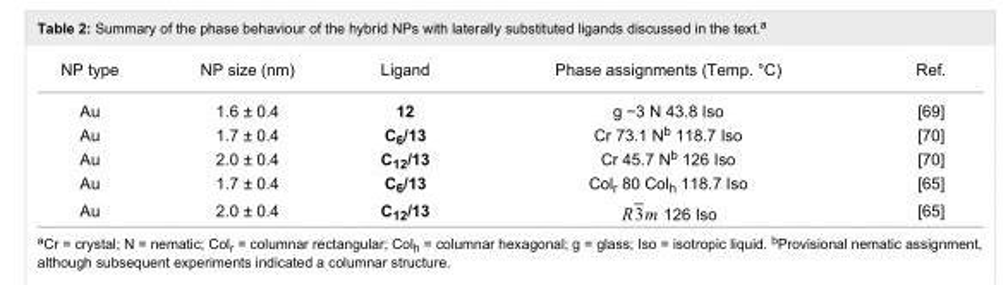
<table><tbody><tr><td>NP type</td><td>NP size (nm)</td><td>Ligand</td><td>Phase assignments (Temp. °C)</td><td>Ref.</td></tr><tr><td>Au</td><td>1.6 ± 0.4</td><td>12</td><td>g −3 N 43.8 Iso</td><td>[69]</td></tr><tr><td>Au</td><td>1.7 ± 0.4</td><td>C<sub>6</sub>/13</td><td>Cr 73.1 N<sup>b</sup> 118.7 Iso</td><td>[70]</td></tr><tr><td>Au</td><td>2.0 ± 0.4</td><td>C<sub>12</sub>/13</td><td>Cr 45.7 N<sup>b</sup> 126 Iso</td><td>[70]</td></tr><tr><td>Au</td><td>1.7 ± 0.4</td><td>C<sub>6</sub>/13</td><td>Col<sub>r</sub> 80 Col<sub>h</sub> 118.7 Iso</td><td>[65]</td></tr><tr><td>Au</td><td>2.0 ± 0.4</td><td>C<sub>12</sub>/13</td><td>126 Iso</td><td>[65]</td></tr></tbody></table>